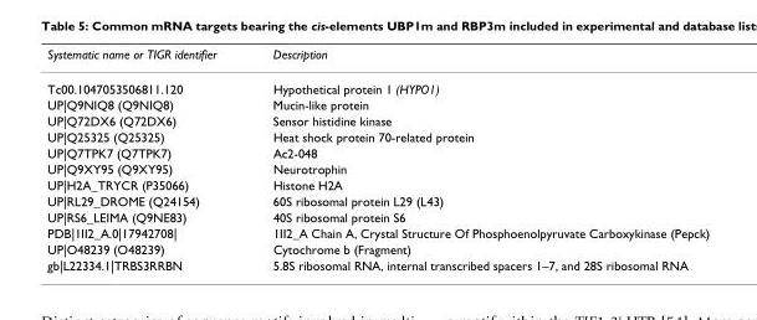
<table><thead><tr><td>Systematic name or TIGR identifier</td><td>Description</td></tr></thead><tbody><tr><td>Tc00.1047053506811.120</td><td>Hypothetical protein 1 (HYPO1)</td></tr><tr><td>UP|Q9NIQ8 (Q9NIQ8)</td><td>Mucin-like protein</td></tr><tr><td>UP|Q72DX6 (Q72DX6)</td><td>Sensor histidine kinase</td></tr><tr><td>UP|Q25325 (Q25325)</td><td>Heat shock protein 70-related protein</td></tr><tr><td>UP|Q7TPK7 (Q7TPK7)</td><td>Ac2-048</td></tr><tr><td>UP|Q9XY95 (Q9XY95)</td><td>Neurotrophin</td></tr><tr><td>UP|H2A_TRYCR (P35066)</td><td>Histone H2A</td></tr><tr><td>UP|RL29_DROME (Q24154)</td><td>60S ribosomal protein L29 (L43)</td></tr><tr><td>UP|RS6_LEIMA (Q9NE83)</td><td>40S ribosomal protein S6</td></tr><tr><td>PDB|1II2_A.0|17942708|</td><td>1II2_A Chain A, Crystal Structure Of Phosphoenolpyruvate Carboxykinase (Pepck)</td></tr><tr><td>UP|O48239 (O48239)</td><td>Cytochrome b (Fragment)</td></tr><tr><td>gb|L22334.1|TRBS3RRBN</td><td>5.8S ribosomal RNA, internal transcribed spacers 1–7, and 28S ribosomal RNA</td></tr></tbody></table>